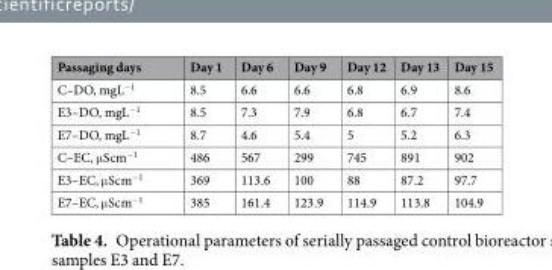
<table><thead><tr><td>Passaging days</td><td>Day 1</td><td>Day 6</td><td>Day 9</td><td>Day 12</td><td>Day 13</td><td>Day 15</td></tr></thead><tbody><tr><td>C–DO, mgL<sup>−1</sup></td><td>8.5</td><td>6.6</td><td>6.6</td><td>6.8</td><td>6.9</td><td>8.6</td></tr><tr><td>E3–DO, mgL<sup>−1</sup></td><td>8.5</td><td>7.3</td><td>7.9</td><td>6.8</td><td>6.7</td><td>7.4</td></tr><tr><td>E7–DO, mgL<sup>−1</sup></td><td>8.7</td><td>4.6</td><td>5.4</td><td>5</td><td>5.2</td><td>6.3</td></tr><tr><td>C–EC, μScm<sup>−1</sup></td><td>486</td><td>567</td><td>299</td><td>745</td><td>891</td><td>902</td></tr><tr><td>E3–EC, μScm<sup>−1</sup></td><td>369</td><td>113.6</td><td>100</td><td>88</td><td>87.2</td><td>97.7</td></tr><tr><td>E7–EC, μScm<sup>−1</sup></td><td>385</td><td>161.4</td><td>123.9</td><td>114.9</td><td>113.8</td><td>104.9</td></tr></tbody></table>